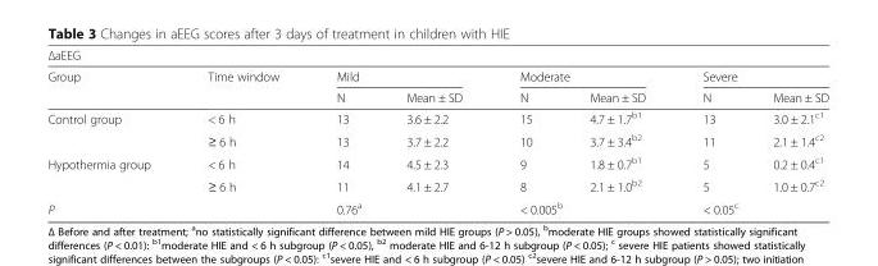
<table><thead><tr><td colspan="8">ΔaEEG</td></tr><tr><td rowspan="2">Group</td><td rowspan="2">Time window</td><td colspan="2">Mild</td><td colspan="2">Moderate</td><td colspan="2">Severe</td></tr><tr><td>N</td><td>Mean ± SD</td><td>N</td><td>Mean ± SD</td><td>N</td><td>Mean ± SD</td></tr></thead><tbody><tr><td rowspan="2">Control group</td><td>&lt; 6 h</td><td>13</td><td>3.6 ± 2.2</td><td>15</td><td>4.7 ± 1.7<sup>b1</sup></td><td>13</td><td>3.0 ± 2.1<sup>c1</sup></td></tr><tr><td>≥ 6 h</td><td>13</td><td>3.7 ± 2.2</td><td>10</td><td>3.7 ± 3.4<sup>b2</sup></td><td>11</td><td>2.1 ± 1.4<sup>c2</sup></td></tr><tr><td rowspan="2">Hypothermia group</td><td>&lt; 6 h</td><td>14</td><td>4.5 ± 2.3</td><td>9</td><td>1.8 ± 0.7<sup>b1</sup></td><td>5</td><td>0.2 ± 0.4<sup>c1</sup></td></tr><tr><td>≥ 6 h</td><td>11</td><td>4.1 ± 2.7</td><td>8</td><td>2.1 ± 1.0<sup>b2</sup></td><td>5</td><td>1.0 ± 0.7<sup>c2</sup></td></tr><tr><td colspan="2">P</td><td colspan="2">0.76<sup>a</sup></td><td colspan="2">&lt; 0.005<sup>b</sup></td><td colspan="2">&lt; 0.05<sup>c</sup></td></tr></tbody></table>